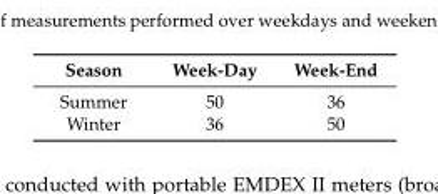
<table><thead><tr><td>Season</td><td>Week-Day</td><td>Week-End</td></tr></thead><tbody><tr><td>Summer</td><td>50</td><td>36</td></tr><tr><td>Winter</td><td>36</td><td>50</td></tr></tbody></table>